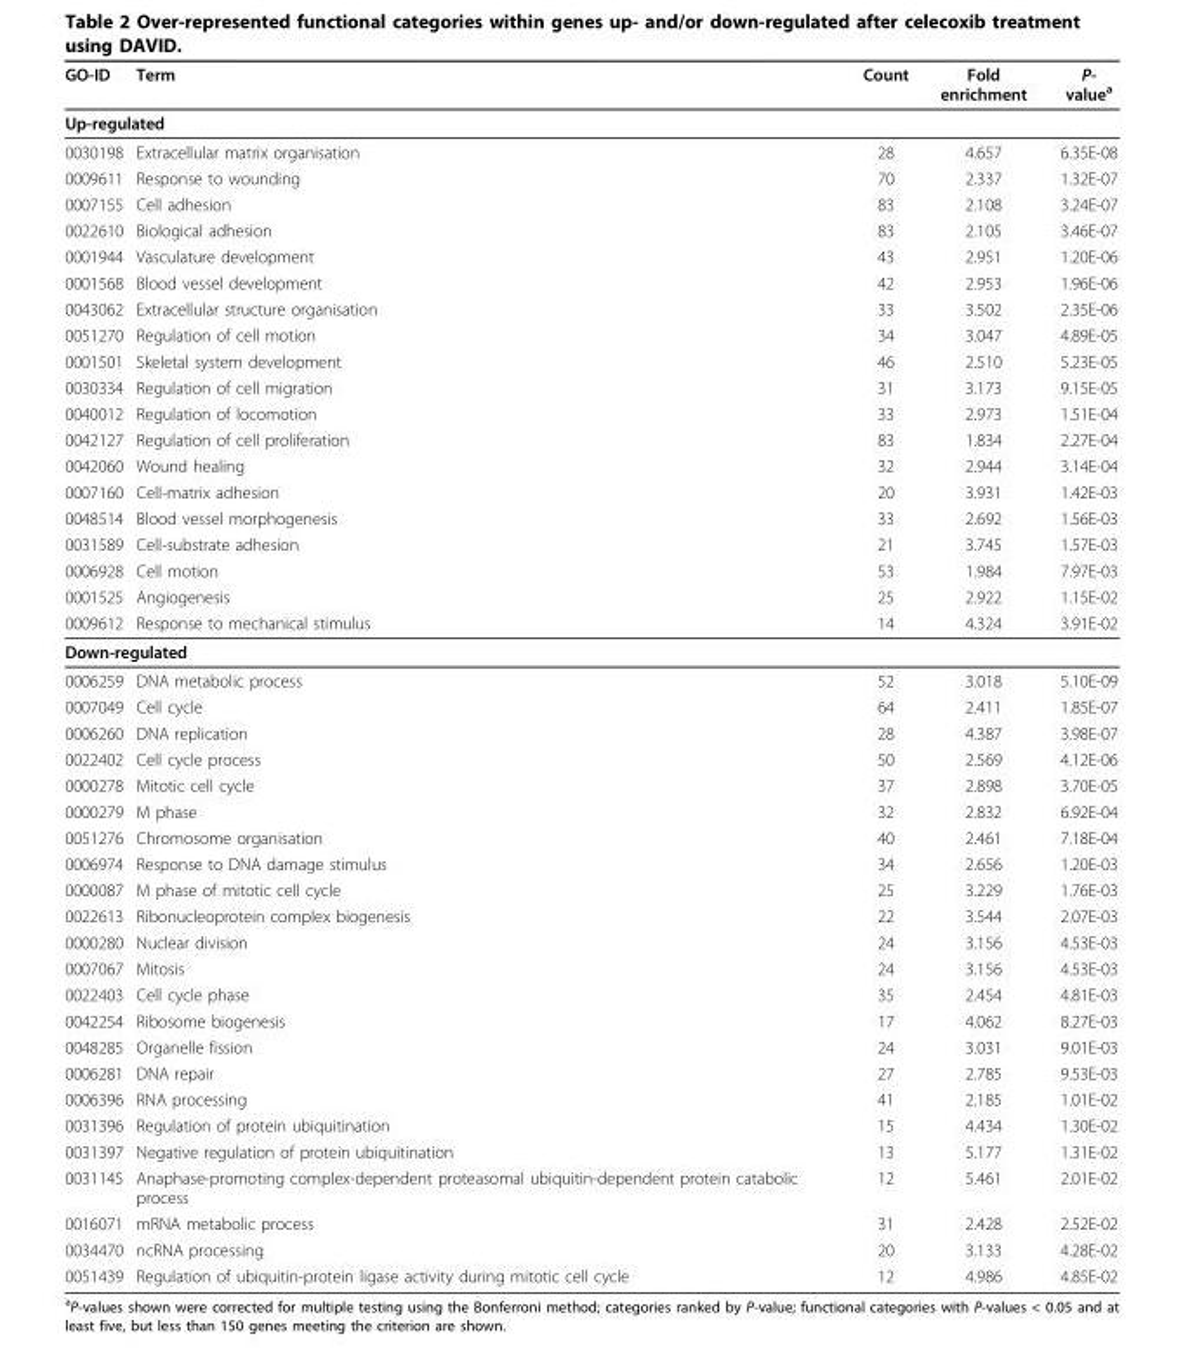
<table><thead><tr><td>GO-ID</td><td>Term</td><td>Count</td><td>Fold enrichment</td><td>P- value<sup>a</sup></td></tr></thead><tbody><tr><td colspan="5">Up-regulated</td></tr><tr><td>0030198</td><td>Extracellular matrix organisation</td><td>28</td><td>4.657</td><td>6.35E-08</td></tr><tr><td>0009611</td><td>Response to wounding</td><td>70</td><td>2.337</td><td>1.32E-07</td></tr><tr><td>0007155</td><td>Cell adhesion</td><td>83</td><td>2.108</td><td>3.24E-07</td></tr><tr><td>0022610</td><td>Biological adhesion</td><td>83</td><td>2.105</td><td>3.46E-07</td></tr><tr><td>0001944</td><td>Vasculature development</td><td>43</td><td>2.951</td><td>1.20E-06</td></tr><tr><td>0001568</td><td>Blood vessel development</td><td>42</td><td>2.953</td><td>1.96E-06</td></tr><tr><td>0043062</td><td>Extracellular structure organisation</td><td>33</td><td>3.502</td><td>2.35E-06</td></tr><tr><td>0051270</td><td>Regulation of cell motion</td><td>34</td><td>3.047</td><td>4.89E-05</td></tr><tr><td>0001501</td><td>Skeletal system development</td><td>46</td><td>2.510</td><td>5.23E-05</td></tr><tr><td>0030334</td><td>Regulation of cell migration</td><td>31</td><td>3.173</td><td>9.15E-05</td></tr><tr><td>0040012</td><td>Regulation of locomotion</td><td>33</td><td>2.973</td><td>1.51E-04</td></tr><tr><td>0042127</td><td>Regulation of cell proliferation</td><td>83</td><td>1.834</td><td>2.27E-04</td></tr><tr><td>0042060</td><td>Wound healing</td><td>32</td><td>2.944</td><td>3.14E-04</td></tr><tr><td>0007160</td><td>Cell-matrix adhesion</td><td>20</td><td>3.931</td><td>1.42E-03</td></tr><tr><td>0048514</td><td>Blood vessel morphogenesis</td><td>33</td><td>2.692</td><td>1.56E-03</td></tr><tr><td>0031589</td><td>Cell-substrate adhesion</td><td>21</td><td>3.745</td><td>1.57E-03</td></tr><tr><td>0006928</td><td>Cell motion</td><td>53</td><td>1.984</td><td>7.97E-03</td></tr><tr><td>0001525</td><td>Angiogenesis</td><td>25</td><td>2.922</td><td>1.15E-02</td></tr><tr><td>0009612</td><td>Response to mechanical stimulus</td><td>14</td><td>4.324</td><td>3.91E-02</td></tr><tr><td colspan="5">Down-regulated</td></tr><tr><td>0006259</td><td>DNA metabolic process</td><td>52</td><td>3.018</td><td>5.10E-09</td></tr><tr><td>0007049</td><td>Cell cycle</td><td>64</td><td>2.411</td><td>1.85E-07</td></tr><tr><td>0006260</td><td>DNA replication</td><td>28</td><td>4.387</td><td>3.98E-07</td></tr><tr><td>0022402</td><td>Cell cycle process</td><td>50</td><td>2.569</td><td>4.12E-06</td></tr><tr><td>0000278</td><td>Mitotic cell cycle</td><td>37</td><td>2.898</td><td>3.70E-05</td></tr><tr><td>0000279</td><td>M phase</td><td>32</td><td>2.832</td><td>6.92E-04</td></tr><tr><td>0051276</td><td>Chromosome organisation</td><td>40</td><td>2.461</td><td>7.18E-04</td></tr><tr><td>0006974</td><td>Response to DNA damage stimulus</td><td>34</td><td>2.656</td><td>1.20E-03</td></tr><tr><td>0000087</td><td>M phase of mitotic cell cycle</td><td>25</td><td>3.229</td><td>1.76E-03</td></tr><tr><td>0022613</td><td>Ribonucleoprotein complex biogenesis</td><td>22</td><td>3.544</td><td>2.07E-03</td></tr><tr><td>0000280</td><td>Nuclear division</td><td>24</td><td>3.156</td><td>4.53E-03</td></tr><tr><td>0007067</td><td>Mitosis</td><td>24</td><td>3.156</td><td>4.53E-03</td></tr><tr><td>0022403</td><td>Cell cycle phase</td><td>35</td><td>2.454</td><td>4.81E-03</td></tr><tr><td>0042254</td><td>Ribosome biogenesis</td><td>17</td><td>4.062</td><td>8.27E-03</td></tr><tr><td>0048285</td><td>Organelle fission</td><td>24</td><td>3.031</td><td>9.01E-03</td></tr><tr><td>0006281</td><td>DNA repair</td><td>27</td><td>2.785</td><td>9.53E-03</td></tr><tr><td>0006396</td><td>RNA processing</td><td>41</td><td>2.185</td><td>1.01E-02</td></tr><tr><td>0031396</td><td>Regulation of protein ubiquitination</td><td>15</td><td>4.434</td><td>1.30E-02</td></tr><tr><td>0031397</td><td>Negative regulation of protein ubiquitination</td><td>13</td><td>5.177</td><td>1.31E-02</td></tr><tr><td>0031145</td><td>Anaphase-promoting complex-dependent proteasomal ubiquitin-dependent protein catabolic process</td><td>12</td><td>5.461</td><td>2.01E-02</td></tr><tr><td>0016071</td><td>mRNA metabolic process</td><td>31</td><td>2.428</td><td>2.52E-02</td></tr><tr><td>0034470</td><td>ncRNA processing</td><td>20</td><td>3.133</td><td>4.28E-02</td></tr><tr><td>0051439</td><td>Regulation of ubiquitin-protein ligase activity during mitotic cell cycle</td><td>12</td><td>4.986</td><td>4.85E-02</td></tr></tbody></table>